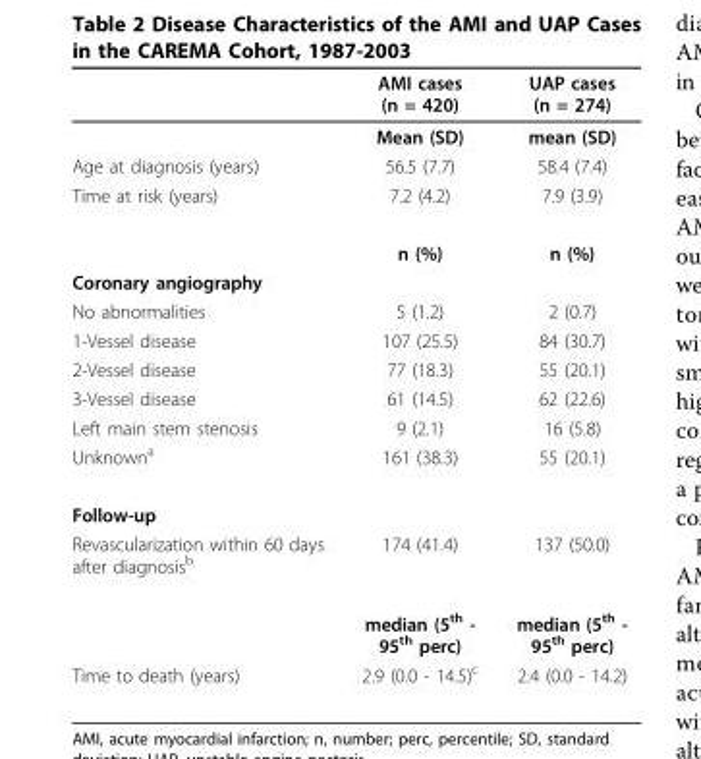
<table><thead><tr><td></td><td>AMI cases (n = 420)</td><td>UAP cases (n = 274)</td></tr></thead><tbody><tr><td></td><td>Mean (SD)</td><td>mean (SD)</td></tr><tr><td>Age at diagnosis (years)</td><td>56.5 (7.7)</td><td>58.4 (7.4)</td></tr><tr><td rowspan="2">Time at risk (years)</td><td>7.2 (4.2)</td><td>7.9 (3.9)</td></tr><tr><td>n (%)</td><td>n (%)</td></tr><tr><td colspan="3">Coronary angiography</td></tr><tr><td>No abnormalities</td><td>5 (1.2)</td><td>2 (0.7)</td></tr><tr><td>1-Vessel disease</td><td>107 (25.5)</td><td>84 (30.7)</td></tr><tr><td>2-Vessel disease</td><td>77 (18.3)</td><td>55 (20.1)</td></tr><tr><td>3-Vessel disease</td><td>61 (14.5)</td><td>62 (22.6)</td></tr><tr><td>Left main stem stenosis</td><td>9 (2.1)</td><td>16 (5.8)</td></tr><tr><td>Unknown<sup>a</sup></td><td>161 (38.3)</td><td>55 (20.1)</td></tr><tr><td colspan="3">Follow-up</td></tr><tr><td rowspan="2">Revascularization within 60 days after diagnosis<sup>b</sup></td><td>174 (41.4)</td><td>137 (50.0)</td></tr><tr><td>median (5<sup>th</sup> - 95<sup>th</sup> perc)</td><td>median (5<sup>th</sup> - 95<sup>th</sup> perc)</td></tr><tr><td>Time to death (years)</td><td>2.9 (0.0 - 14.5)<sup>c</sup></td><td>2.4 (0.0 - 14.2)</td></tr></tbody></table>